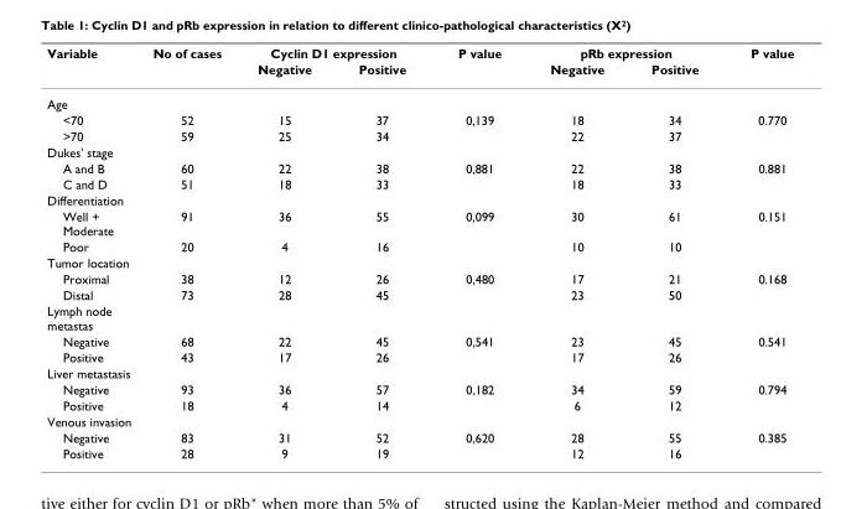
<table><thead><tr><td rowspan="2">Variable</td><td rowspan="2">No of cases</td><td colspan="2">Cyclin D1 expression</td><td rowspan="2">P value</td><td colspan="2">pRb expression</td><td rowspan="2">P value</td></tr><tr><td>Negative</td><td>Positive</td><td>Negative</td><td>Positive</td></tr></thead><tbody><tr><td colspan="8">Age</td></tr><tr><td>&lt;70</td><td>52</td><td>15</td><td>37</td><td>0,139</td><td>18</td><td>34</td><td>0.770</td></tr><tr><td>&gt;70</td><td>59</td><td>25</td><td>34</td><td></td><td>22</td><td>37</td><td></td></tr><tr><td colspan="8">Dukes&#x27; stage</td></tr><tr><td>A and B</td><td>60</td><td>22</td><td>38</td><td>0,881</td><td>22</td><td>38</td><td>0.881</td></tr><tr><td>C and D</td><td>51</td><td>18</td><td>33</td><td></td><td>18</td><td>33</td><td></td></tr><tr><td colspan="8">Differentiation</td></tr><tr><td>Well + Moderate</td><td>91</td><td>36</td><td>55</td><td>0,099</td><td>30</td><td>61</td><td>0.151</td></tr><tr><td>Poor</td><td>20</td><td>4</td><td>16</td><td></td><td>10</td><td>10</td><td></td></tr><tr><td colspan="8">Tumor location</td></tr><tr><td>Proximal</td><td>38</td><td>12</td><td>26</td><td>0,480</td><td>17</td><td>21</td><td>0.168</td></tr><tr><td>Distal</td><td>73</td><td>28</td><td>45</td><td></td><td>23</td><td>50</td><td></td></tr><tr><td colspan="8">Lymph node metastas</td></tr><tr><td>Negative</td><td>68</td><td>22</td><td>45</td><td>0,541</td><td>23</td><td>45</td><td>0.541</td></tr><tr><td>Positive</td><td>43</td><td>17</td><td>26</td><td></td><td>17</td><td>26</td><td></td></tr><tr><td colspan="8">Liver metastasis</td></tr><tr><td>Negative</td><td>93</td><td>36</td><td>57</td><td>0,182</td><td>34</td><td>59</td><td>0.794</td></tr><tr><td>Positive</td><td>18</td><td>4</td><td>14</td><td></td><td>6</td><td>12</td><td></td></tr><tr><td colspan="8">Venous invasion</td></tr><tr><td>Negative</td><td>83</td><td>31</td><td>52</td><td>0,620</td><td>28</td><td>55</td><td>0.385</td></tr><tr><td>Positive</td><td>28</td><td>9</td><td>19</td><td></td><td>12</td><td>16</td><td></td></tr></tbody></table>